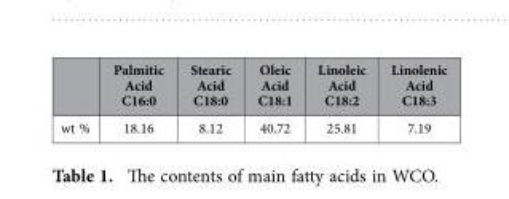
<table><thead><tr><td></td><td>Palmitic Acid C16:0</td><td>Stearic Acid C18:0</td><td>Oleic Acid C18:1</td><td>Linoleic Acid C18:2</td><td>Linolenic Acid C18:3</td></tr></thead><tbody><tr><td>wt %</td><td>18.16</td><td>8.12</td><td>40.72</td><td>25.81</td><td>7.19</td></tr></tbody></table>